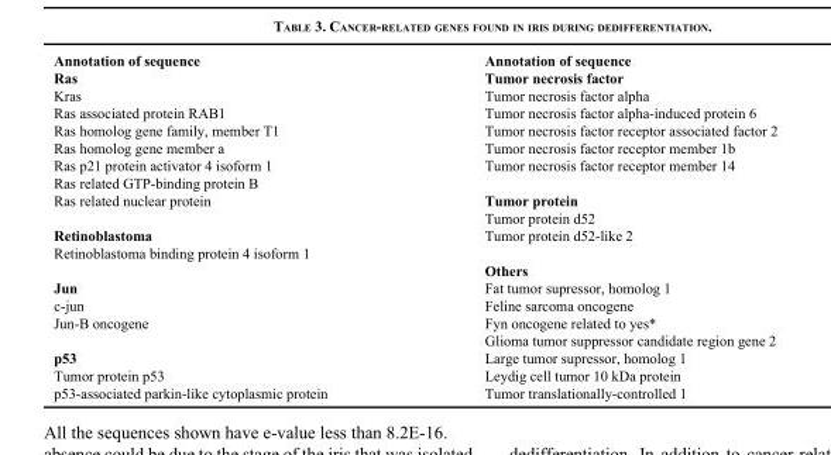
<table><thead><tr><td>Annotation of sequence</td><td>Annotation of sequence</td></tr></thead><tbody><tr><td>Ras</td><td>Tumor necrosis factor</td></tr><tr><td>Kras</td><td>Tumor necrosis factor alpha</td></tr><tr><td>Ras associated protein RAB1</td><td>Tumor necrosis factor alpha-induced protein 6</td></tr><tr><td>Ras homolog gene family, member T1</td><td>Tumor necrosis factor receptor associated factor 2</td></tr><tr><td>Ras homolog gene member a</td><td>Tumor necrosis factor receptor member 1b</td></tr><tr><td>Ras p21 protein activator 4 isoform 1</td><td>Tumor necrosis factor receptor member 14</td></tr><tr><td colspan="2">Ras related GTP-binding protein B</td></tr><tr><td rowspan="2">Ras related nuclear protein</td><td>Tumor protein</td></tr><tr><td>Tumor protein d52</td></tr><tr><td>Retinoblastoma</td><td>Tumor protein d52-like 2</td></tr><tr><td colspan="2">Retinoblastoma binding protein 4 isoform 1</td></tr><tr><td></td><td>Others</td></tr><tr><td>Jun</td><td>Fat tumor supressor, homolog 1</td></tr><tr><td>c-jun</td><td>Feline sarcoma oncogene</td></tr><tr><td rowspan="2">Jun-B oncogene</td><td>Fyn oncogene related to yes*</td></tr><tr><td>Glioma tumor suppressor candidate region gene 2</td></tr><tr><td>p53</td><td>Large tumor supressor, homolog 1</td></tr><tr><td>Tumor protein p53</td><td>Leydig cell tumor 10 kDa protein</td></tr><tr><td>p53-associated parkin-like cytoplasmic protein</td><td>Tumor translationally-controlled 1</td></tr></tbody></table>